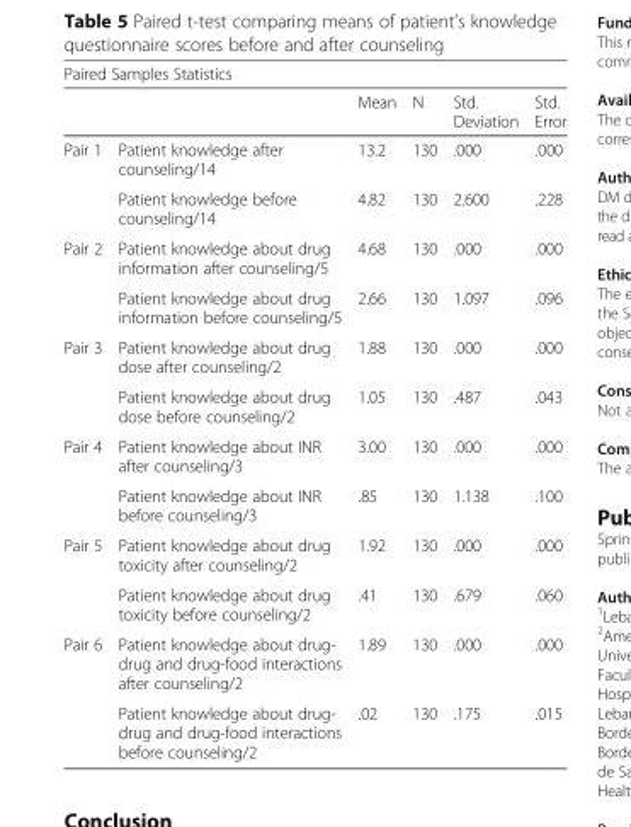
<table><thead><tr><td colspan="6">Paired Samples Statistics</td></tr><tr><td></td><td></td><td>Mean</td><td>N</td><td>Std. Deviation</td><td>Std. Error</td></tr></thead><tbody><tr><td rowspan="2">Pair 1</td><td>Patient knowledge after counseling/14</td><td>13.2</td><td>130</td><td>.000</td><td>.000</td></tr><tr><td>Patient knowledge before counseling/14</td><td>4.82</td><td>130</td><td>2.600</td><td>.228</td></tr><tr><td rowspan="2">Pair 2</td><td>Patient knowledge about drug information after counseling/5</td><td>4.68</td><td>130</td><td>.000</td><td>.000</td></tr><tr><td>Patient knowledge about drug information before counseling/5</td><td>2.66</td><td>130</td><td>1.097</td><td>.096</td></tr><tr><td rowspan="2">Pair 3</td><td>Patient knowledge about drug dose after counseling/2</td><td>1.88</td><td>130</td><td>.000</td><td>.000</td></tr><tr><td>Patient knowledge about drug dose before counseling/2</td><td>1.05</td><td>130</td><td>.487</td><td>.043</td></tr><tr><td rowspan="2">Pair 4</td><td>Patient knowledge about INR after counseling/3</td><td>3.00</td><td>130</td><td>.000</td><td>.000</td></tr><tr><td>Patient knowledge about INR before counseling/3</td><td>.85</td><td>130</td><td>1.138</td><td>.100</td></tr><tr><td rowspan="2">Pair 5</td><td>Patient knowledge about drug toxicity after counseling/2</td><td>1.92</td><td>130</td><td>.000</td><td>.000</td></tr><tr><td>Patient knowledge about drug toxicity before counseling/2</td><td>.41</td><td>130</td><td>.679</td><td>.060</td></tr><tr><td rowspan="2">Pair 6</td><td>Patient knowledge about drug- drug and drug-food interactions after counseling/2</td><td>1.89</td><td>130</td><td>.000</td><td>.000</td></tr><tr><td>Patient knowledge about drug- drug and drug-food interactions before counseling/2</td><td>.02</td><td>130</td><td>.175</td><td>.015</td></tr></tbody></table>